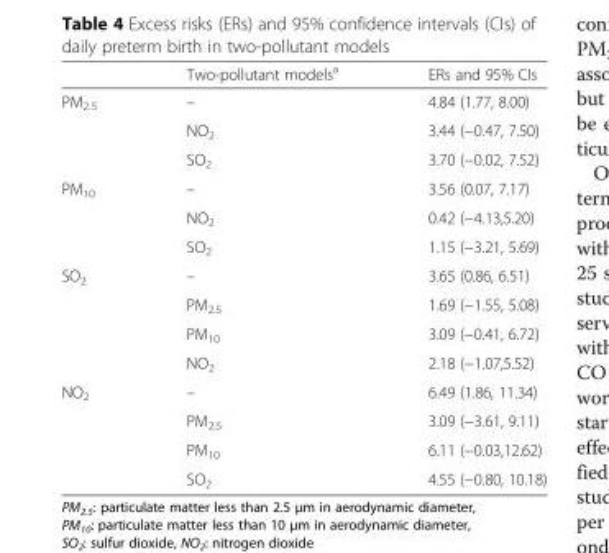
<table><thead><tr><td></td><td>Two-pollutant models<sup>a</sup></td><td>ERs and 95% CIs</td></tr></thead><tbody><tr><td rowspan="3">PM<sub>2.5</sub></td><td>–</td><td>4.84 (1.77, 8.00)</td></tr><tr><td>NO<sub>2</sub></td><td>3.44 (−0.47, 7.50)</td></tr><tr><td>SO<sub>2</sub></td><td>3.70 (−0.02, 7.52)</td></tr><tr><td rowspan="3">PM<sub>10</sub></td><td>–</td><td>3.56 (0.07, 7.17)</td></tr><tr><td>NO<sub>2</sub></td><td>0.42 (−4.13,5.20)</td></tr><tr><td>SO<sub>2</sub></td><td>1.15 (−3.21, 5.69)</td></tr><tr><td rowspan="4">SO<sub>2</sub></td><td>–</td><td>3.65 (0.86, 6.51)</td></tr><tr><td>PM<sub>2.5</sub></td><td>1.69 (−1.55, 5.08)</td></tr><tr><td>PM<sub>10</sub></td><td>3.09 (−0.41, 6.72)</td></tr><tr><td>NO<sub>2</sub></td><td>2.18 (−1.07,5.52)</td></tr><tr><td rowspan="4">NO<sub>2</sub></td><td>–</td><td>6.49 (1.86, 11.34)</td></tr><tr><td>PM<sub>2.5</sub></td><td>3.09 (−3.61, 9.11)</td></tr><tr><td>PM<sub>10</sub></td><td>6.11 (−0.03,12.62)</td></tr><tr><td>SO<sub>2</sub></td><td>4.55 (−0.80, 10.18)</td></tr></tbody></table>